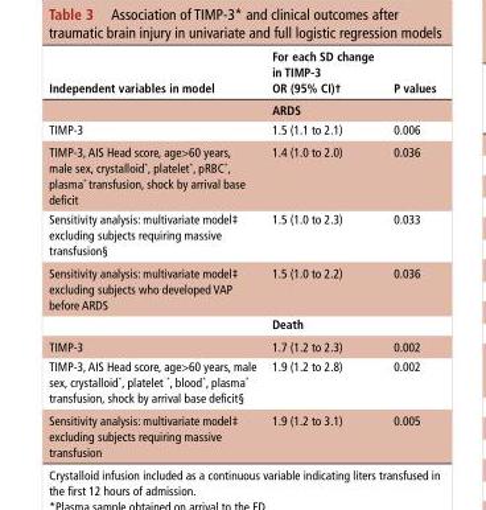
<table><thead><tr><td>Independent variables in model</td><td>For each sd change in TImP-3 or (95% CI)†</td><td>P values</td></tr></thead><tbody><tr><td></td><td>Ards</td><td></td></tr><tr><td>TIMP-3</td><td>1.5 (1.1 to 2.1)</td><td>0.006</td></tr><tr><td>TIMP-3, AIS Head score, age&gt;60 years, male sex, crystalloid*, platelet*, pRBC*, plasma* transfusion, shock by arrival base deficit</td><td>1.4 (1.0 to 2.0)</td><td>0.036</td></tr><tr><td>Sensitivity analysis: multivariate model‡ excluding subjects requiring massive transfusion§</td><td>1.5 (1.0 to 2.3)</td><td>0.033</td></tr><tr><td rowspan="2">Sensitivity analysis: multivariate model‡ excluding subjects who developed VAP before ARDS</td><td>1.5 (1.0 to 2.2)</td><td>0.036</td></tr><tr><td>death</td><td></td></tr><tr><td>TIMP-3</td><td>1.7 (1.2 to 2.3)</td><td>0.002</td></tr><tr><td>TIMP-3, AIS Head score, age&gt;60 years, male sex, crystalloid*, platelet *, blood*, plasma* transfusion, shock by arrival base deficit§</td><td>1.9 (1.2 to 2.8)</td><td>0.002</td></tr><tr><td>Sensitivity analysis: multivariate model‡ excluding subjects requiring massive transfusion</td><td>1.9 (1.2 to 3.1)</td><td>0.005</td></tr></tbody></table>